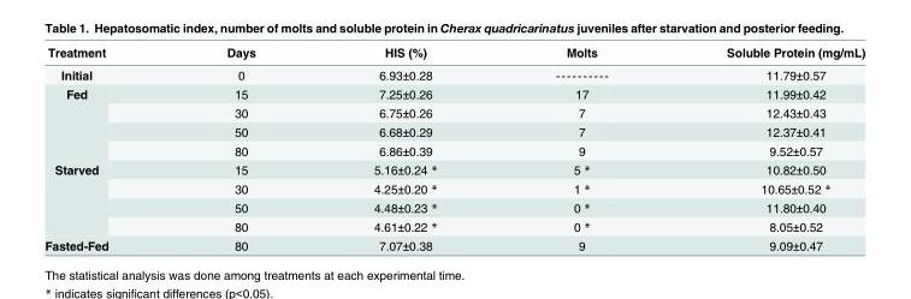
<table><thead><tr><td>Treatment</td><td>Days</td><td>HIS (%)</td><td>Molts</td><td>Soluble Protein (mg/mL)</td></tr></thead><tbody><tr><td>Initial</td><td>0</td><td>6.93±0.28</td><td>----------</td><td>11.79±0.57</td></tr><tr><td rowspan="4">Fed</td><td>15</td><td>7.25±0.26</td><td>17</td><td>11.99±0.42</td></tr><tr><td>30</td><td>6.75±0.26</td><td>7</td><td>12.43±0.43</td></tr><tr><td>50</td><td>6.68±0.29</td><td>7</td><td>12.37±0.41</td></tr><tr><td>80</td><td>6.86±0.39</td><td>9</td><td>9.52±0.57</td></tr><tr><td rowspan="4">Starved</td><td>15</td><td>5.16±0.24 *</td><td>5 *</td><td>10.82±0.50</td></tr><tr><td>30</td><td>4.25±0.20 *</td><td>1 *</td><td>10.65±0.52 *</td></tr><tr><td>50</td><td>4.48±0.23 *</td><td>0 *</td><td>11.80±0.40</td></tr><tr><td>80</td><td>4.61±0.22 *</td><td>0 *</td><td>8.05±0.52</td></tr><tr><td>Fasted-Fed</td><td>80</td><td>7.07±0.38</td><td>9</td><td>9.09±0.47</td></tr></tbody></table>